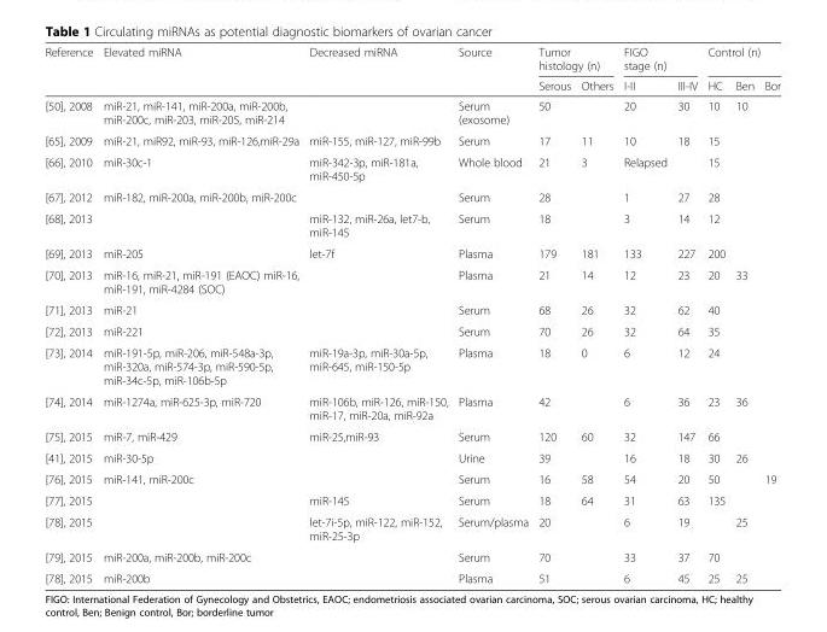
<table><thead><tr><td rowspan="2">Reference</td><td rowspan="2">Elevated miRNA</td><td rowspan="2">Decreased miRNA</td><td rowspan="2">Source</td><td colspan="2">Tumor histology (n)</td><td colspan="2">FIGO stage (n)</td><td colspan="3">Control (n)</td></tr><tr><td>Serous</td><td>Others</td><td>I-II</td><td>III-IV</td><td>HC</td><td>Ben</td><td>Bor</td></tr></thead><tbody><tr><td>[50], 2008</td><td>miR-21, miR-141, miR-200a, miR-200b, miR-200c, miR-203, miR-205, miR-214</td><td></td><td>Serum (exosome)</td><td>50</td><td></td><td>20</td><td>30</td><td>10</td><td>10</td><td></td></tr><tr><td>[65], 2009</td><td>miR-21, miR92, miR-93, miR-126,miR-29a</td><td>miR-155, miR-127, miR-99b</td><td>Serum</td><td>17</td><td>11</td><td>10</td><td>18</td><td>15</td><td></td><td></td></tr><tr><td>[66], 2010</td><td>miR-30c-1</td><td>miR-342-3p, miR-181a, miR-450-5p</td><td>Whole blood</td><td>21</td><td>3</td><td>Relapsed</td><td></td><td>15</td><td></td><td></td></tr><tr><td>[67], 2012</td><td>miR-182, miR-200a, miR-200b, miR-200c</td><td></td><td>Serum</td><td>28</td><td></td><td>1</td><td>27</td><td>28</td><td></td><td></td></tr><tr><td>[68], 2013</td><td></td><td>miR-132, miR-26a, let7-b, miR-145</td><td>Serum</td><td>18</td><td></td><td>3</td><td>14</td><td>12</td><td></td><td></td></tr><tr><td>[69], 2013</td><td>miR-205</td><td>let-7f</td><td>Plasma</td><td>179</td><td>181</td><td>133</td><td>227</td><td>200</td><td></td><td></td></tr><tr><td>[70], 2013</td><td>miR-16, miR-21, miR-191 (EAOC) miR-16, miR-191, miR-4284 (SOC)</td><td></td><td>Plasma</td><td>21</td><td>14</td><td>12</td><td>23</td><td>20</td><td>33</td><td></td></tr><tr><td>[71], 2013</td><td>miR-21</td><td></td><td>Serum</td><td>68</td><td>26</td><td>32</td><td>62</td><td>40</td><td></td><td></td></tr><tr><td>[72], 2013</td><td>miR-221</td><td></td><td>Serum</td><td>70</td><td>26</td><td>32</td><td>64</td><td>35</td><td></td><td></td></tr><tr><td>[73], 2014</td><td>miR-191-5p, miR-206, miR-548a-3p, miR-320a, miR-574-3p, miR-590-5p, miR-34c-5p, miR-106b-5p</td><td>miR-19a-3p, miR-30a-5p, miR-645, miR-150-5p</td><td>Plasma</td><td>18</td><td>0</td><td>6</td><td>12</td><td>24</td><td></td><td></td></tr><tr><td>[74], 2014</td><td>miR-1274a, miR-625-3p, miR-720</td><td>miR-106b, miR-126, miR-150, miR-17, miR-20a, miR-92a</td><td>Plasma</td><td>42</td><td></td><td>6</td><td>36</td><td>23</td><td>36</td><td></td></tr><tr><td>[75], 2015</td><td>miR-7, miR-429</td><td>miR-25,miR-93</td><td>Serum</td><td>120</td><td>60</td><td>32</td><td>147</td><td>66</td><td></td><td></td></tr><tr><td>[41], 2015</td><td>miR-30-5p</td><td></td><td>Urine</td><td>39</td><td></td><td>16</td><td>18</td><td>30</td><td>26</td><td></td></tr><tr><td>[76], 2015</td><td>miR-141, miR-200c</td><td></td><td>Serum</td><td>16</td><td>58</td><td>54</td><td>20</td><td>50</td><td></td><td>19</td></tr><tr><td>[77], 2015</td><td></td><td>miR-145</td><td>Serum</td><td>18</td><td>64</td><td>31</td><td>63</td><td>135</td><td></td><td></td></tr><tr><td>[78], 2015</td><td></td><td>let-7i-5p, miR-122, miR-152, miR-25-3p</td><td>Serum/plasma</td><td>20</td><td></td><td>6</td><td>19</td><td></td><td>25</td><td></td></tr><tr><td>[79], 2015</td><td>miR-200a, miR-200b, miR-200c</td><td></td><td>Serum</td><td>70</td><td></td><td>33</td><td>37</td><td>70</td><td></td><td></td></tr><tr><td>[78], 2015</td><td>miR-200b</td><td></td><td>Plasma</td><td>51</td><td></td><td>6</td><td>45</td><td>25</td><td>25</td><td></td></tr></tbody></table>